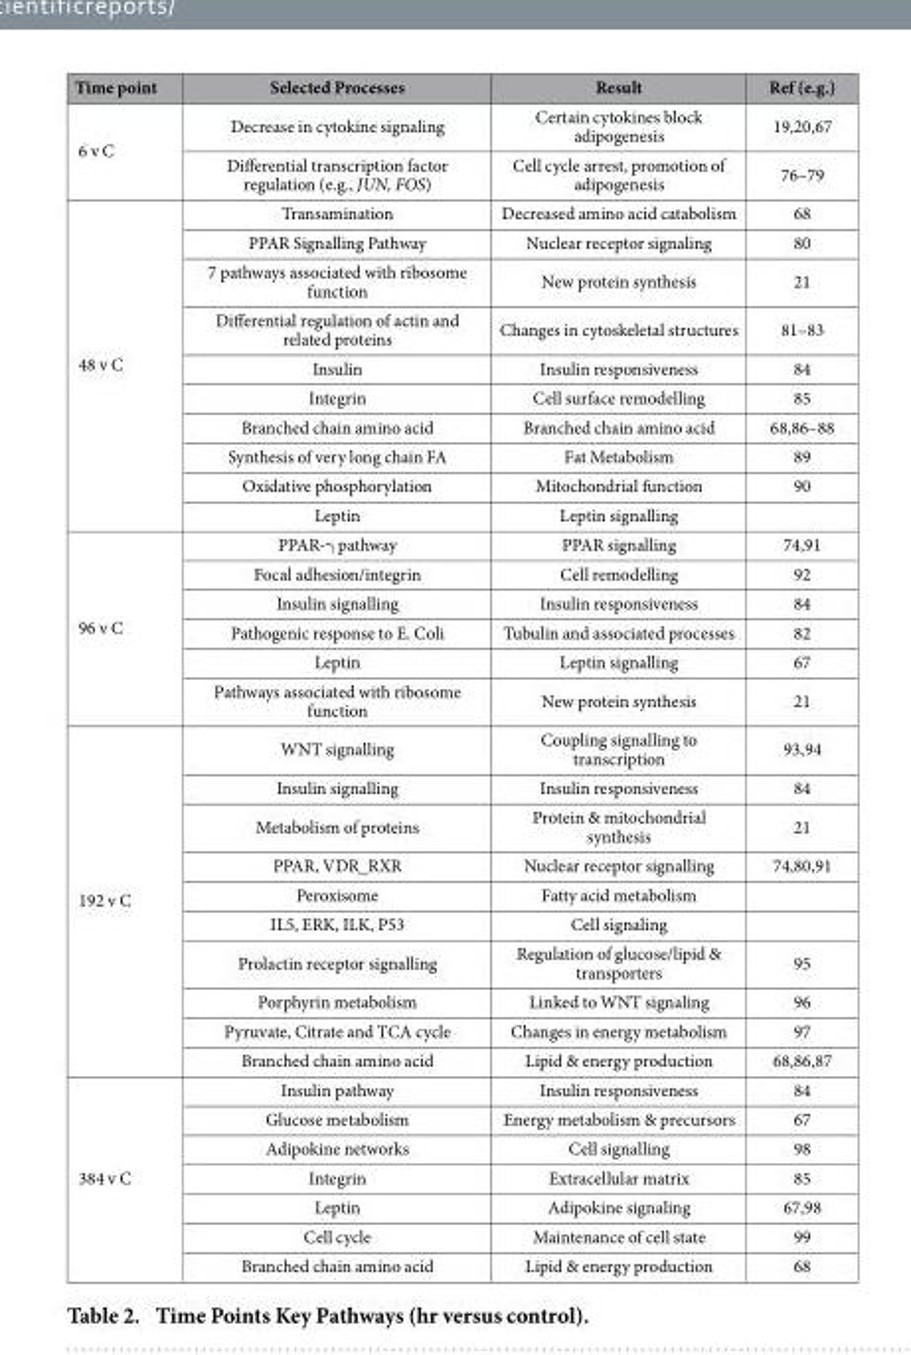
<table><thead><tr><td>Time point</td><td>Selected Processes</td><td>Result</td><td>Ref (e.g.)</td></tr></thead><tbody><tr><td rowspan="2">6 v C</td><td>Decrease in cytokine signaling</td><td>Certain cytokines block adipogenesis</td><td>19,20,67</td></tr><tr><td>Differential transcription factor regulation (e.g., JUN, FOS)</td><td>Cell cycle arrest, promotion of adipogenesis</td><td>76–79</td></tr><tr><td rowspan="10">48 v C</td><td>Transamination</td><td>Decreased amino acid catabolism</td><td>68</td></tr><tr><td>PPAR Signalling Pathway</td><td>Nuclear receptor signaling</td><td>80</td></tr><tr><td>7 pathways associated with ribosome function</td><td>New protein synthesis</td><td>21</td></tr><tr><td>Differential regulation of actin and related proteins</td><td>Changes in cytoskeletal structures</td><td>81–83</td></tr><tr><td>Insulin</td><td>Insulin responsiveness</td><td>84</td></tr><tr><td>Integrin</td><td>Cell surface remodelling</td><td>85</td></tr><tr><td>Branched chain amino acid</td><td>Branched chain amino acid</td><td>68,86–88</td></tr><tr><td>Synthesis of very long chain FA</td><td>Fat Metabolism</td><td>89</td></tr><tr><td>Oxidative phosphorylation</td><td>Mitochondrial function</td><td>90</td></tr><tr><td>Leptin</td><td>Leptin signalling</td><td></td></tr><tr><td rowspan="6">96 v C</td><td>PPAR-γ pathway</td><td>PPAR signalling</td><td>74,91</td></tr><tr><td>Focal adhesion/integrin</td><td>Cell remodelling</td><td>92</td></tr><tr><td>Insulin signalling</td><td>Insulin responsiveness</td><td>84</td></tr><tr><td>Pathogenic response to E. Coli</td><td>Tubulin and associated processes</td><td>82</td></tr><tr><td>Leptin</td><td>Leptin signalling</td><td>67</td></tr><tr><td>Pathways associated with ribosome function</td><td>New protein synthesis</td><td>21</td></tr><tr><td rowspan="10">192 v C</td><td>WNT signalling</td><td>Coupling signalling to transcription</td><td>93,94</td></tr><tr><td>Insulin signalling</td><td>Insulin responsiveness</td><td>84</td></tr><tr><td>Metabolism of proteins</td><td>Protein &amp; mitochondrial synthesis</td><td>21</td></tr><tr><td>PPAR, VDR_RXR</td><td>Nuclear receptor signalling</td><td>74,80,91</td></tr><tr><td>Peroxisome</td><td>Fatty acid metabolism</td><td></td></tr><tr><td>IL5, ERK, ILK, P53</td><td>Cell signaling</td><td></td></tr><tr><td>Prolactin receptor signalling</td><td>Regulation of glucose/lipid &amp; transporters</td><td>95</td></tr><tr><td>Porphyrin metabolism</td><td>Linked to WNT signaling</td><td>96</td></tr><tr><td>Pyruvate, Citrate and TCA cycle</td><td>Changes in energy metabolism</td><td>97</td></tr><tr><td>Branched chain amino acid</td><td>Lipid &amp; energy production</td><td>68,86,87</td></tr><tr><td rowspan="7">384 v C</td><td>Insulin pathway</td><td>Insulin responsiveness</td><td>84</td></tr><tr><td>Glucose metabolism</td><td>Energy metabolism &amp; precursors</td><td>67</td></tr><tr><td>Adipokine networks</td><td>Cell signalling</td><td>98</td></tr><tr><td>Integrin</td><td>Extracellular matrix</td><td>85</td></tr><tr><td>Leptin</td><td>Adipokine signaling</td><td>67,98</td></tr><tr><td>Cell cycle</td><td>Maintenance of cell state</td><td>99</td></tr><tr><td>Branched chain amino acid</td><td>Lipid &amp; energy production</td><td>68</td></tr></tbody></table>